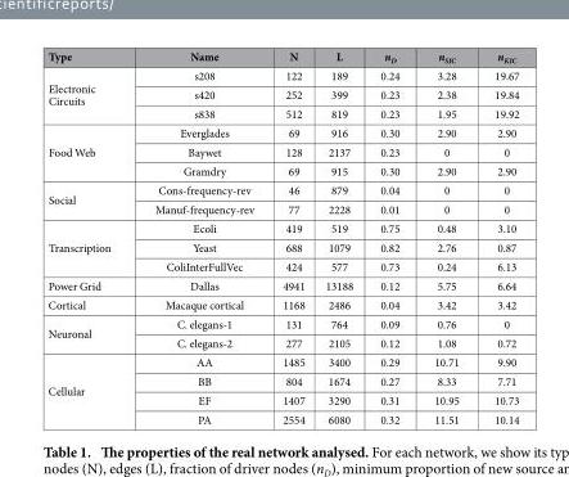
<table><thead><tr><td>Type</td><td>Name</td><td>N</td><td>L</td><td>n<sub>D</sub></td><td>n<sub>SIC</sub></td><td>n<sub>KIC</sub></td></tr></thead><tbody><tr><td rowspan="3">Electronic Circuits</td><td>s208</td><td>122</td><td>189</td><td>0.24</td><td>3.28</td><td>19.67</td></tr><tr><td>s420</td><td>252</td><td>399</td><td>0.23</td><td>2.38</td><td>19.84</td></tr><tr><td>s838</td><td>512</td><td>819</td><td>0.23</td><td>1.95</td><td>19.92</td></tr><tr><td rowspan="3">Food Web</td><td>Everglades</td><td>69</td><td>916</td><td>0.30</td><td>2.90</td><td>2.90</td></tr><tr><td>Baywet</td><td>128</td><td>2137</td><td>0.23</td><td>0</td><td>0</td></tr><tr><td>Gramdry</td><td>69</td><td>915</td><td>0.30</td><td>2.90</td><td>2.90</td></tr><tr><td rowspan="2">Social</td><td>Cons-frequency-rev</td><td>46</td><td>879</td><td>0.04</td><td>0</td><td>0</td></tr><tr><td>Manuf-frequency-rev</td><td>77</td><td>2228</td><td>0.01</td><td>0</td><td>0</td></tr><tr><td rowspan="3">Transcription</td><td>Ecoli</td><td>419</td><td>519</td><td>0.75</td><td>0.48</td><td>3.10</td></tr><tr><td>Yeast</td><td>688</td><td>1079</td><td>0.82</td><td>2.76</td><td>0.87</td></tr><tr><td>ColiInterFullVec</td><td>424</td><td>577</td><td>0.73</td><td>0.24</td><td>6.13</td></tr><tr><td>Power Grid</td><td>Dallas</td><td>4941</td><td>13188</td><td>0.12</td><td>5.75</td><td>6.64</td></tr><tr><td>Cortical</td><td>Macaque cortical</td><td>1168</td><td>2486</td><td>0.04</td><td>3.42</td><td>3.42</td></tr><tr><td rowspan="2">Neuronal</td><td>C. elegans-1</td><td>131</td><td>764</td><td>0.09</td><td>0.76</td><td>0</td></tr><tr><td>C. elegans-2</td><td>277</td><td>2105</td><td>0.12</td><td>1.08</td><td>0.72</td></tr><tr><td rowspan="4">Cellular</td><td>AA</td><td>1485</td><td>3400</td><td>0.29</td><td>10.71</td><td>9.90</td></tr><tr><td>BB</td><td>804</td><td>1674</td><td>0.27</td><td>8.33</td><td>7.71</td></tr><tr><td>EF</td><td>1407</td><td>3290</td><td>0.31</td><td>10.95</td><td>10.73</td></tr><tr><td>PA</td><td>2554</td><td>6080</td><td>0.32</td><td>11.51</td><td>10.14</td></tr></tbody></table>